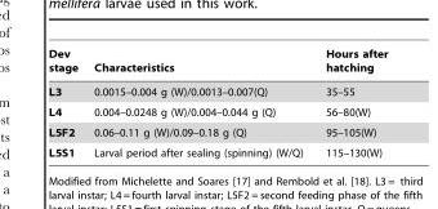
<table><thead><tr><td>Dev stage</td><td>Characteristics</td><td>Hours after hatching</td></tr></thead><tbody><tr><td>L3</td><td>0.0015–0.004 g (W)/0.0013–0.007(Q)</td><td>35–55</td></tr><tr><td>L4</td><td>0.004–0.0248 g (W)/0.004–0.044 g (Q)</td><td>56–80(W)</td></tr><tr><td>L5F2</td><td>0.06–0.11 g (W)/0.09–0.18 g (Q)</td><td>95–105(W)</td></tr><tr><td>L5S1</td><td>Larval period after sealing (spinning) (W/Q)</td><td>115–130(W)</td></tr></tbody></table>